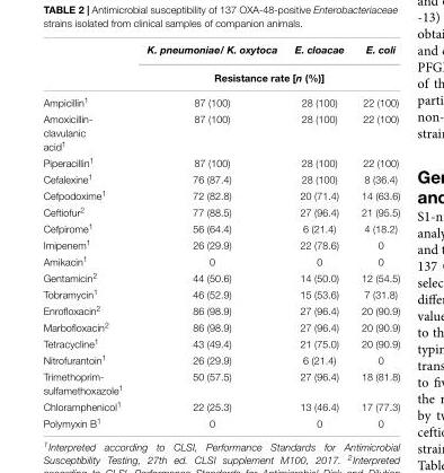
<table><thead><tr><td rowspan="2"></td><td>K. pneumoniae/ K. oxytoca</td><td>E. cloacae</td><td>E. coli</td></tr><tr><td colspan="3">Resistance rate [n (%)]</td></tr></thead><tbody><tr><td>Ampicillin<sup>1</sup></td><td>87 (100)</td><td>28 (100)</td><td>22 (100)</td></tr><tr><td>Amoxicillin- clavulanic acid<sup>1</sup></td><td>87 (100)</td><td>28 (100)</td><td>22 (100)</td></tr><tr><td>Piperacillin<sup>1</sup></td><td>87 (100)</td><td>28 (100)</td><td>22 (100)</td></tr><tr><td>Cefalexine<sup>1</sup></td><td>76 (87.4)</td><td>28 (100)</td><td>8 (36.4)</td></tr><tr><td>Cefpodoxime<sup>1</sup></td><td>72 (82.8)</td><td>20 (71.4)</td><td>14 (63.6)</td></tr><tr><td>Ceftiofur<sup>2</sup></td><td>77 (88.5)</td><td>27 (96.4)</td><td>21 (95.5)</td></tr><tr><td>Cefpirome<sup>1</sup></td><td>56 (64.4)</td><td>6 (21.4)</td><td>4 (18.2)</td></tr><tr><td>Imipenem<sup>1</sup></td><td>26 (29.9)</td><td>22 (78.6)</td><td>0</td></tr><tr><td>Amikacin<sup>1</sup></td><td>0</td><td>0</td><td>0</td></tr><tr><td>Gentamicin<sup>2</sup></td><td>44 (50.6)</td><td>14 (50.0)</td><td>12 (54.5)</td></tr><tr><td>Tobramycin<sup>1</sup></td><td>46 (52.9)</td><td>15 (53.6)</td><td>7 (31.8)</td></tr><tr><td>Enrofloxacin<sup>2</sup></td><td>86 (98.9)</td><td>27 (96.4)</td><td>20 (90.9)</td></tr><tr><td>Marbofloxacin<sup>2</sup></td><td>86 (98.9)</td><td>27 (96.4)</td><td>20 (90.9)</td></tr><tr><td>Tetracycline<sup>1</sup></td><td>43 (49.4)</td><td>21 (75.0)</td><td>20 (90.9)</td></tr><tr><td>Nitrofurantoin<sup>1</sup></td><td>26 (29.9)</td><td>6 (21.4)</td><td>0</td></tr><tr><td>Trimethoprim- sulfamethoxazole<sup>1</sup></td><td>50 (57.5)</td><td>27 (96.4)</td><td>18 (81.8)</td></tr><tr><td>Chloramphenicol<sup>1</sup></td><td>22 (25.3)</td><td>13 (46.4)</td><td>17 (77.3)</td></tr><tr><td>Polymyxin B<sup>1</sup></td><td>0</td><td>0</td><td>0</td></tr></tbody></table>